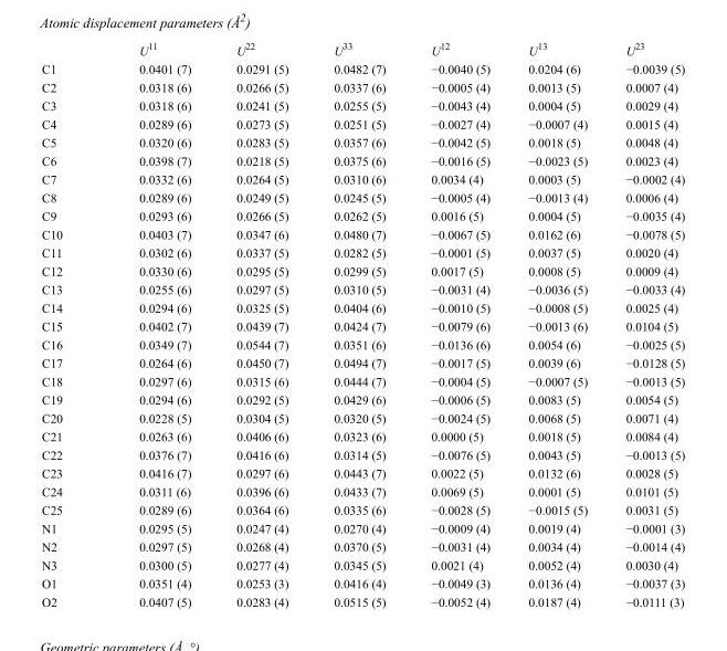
<table><thead><tr><td></td><td>U<sup>11</sup></td><td>U<sup>22</sup></td><td>U<sup>33</sup></td><td>U<sup>12</sup></td><td>U<sup>13</sup></td><td>U<sup>23</sup></td></tr></thead><tbody><tr><td>C1</td><td>0.0401 (7)</td><td>0.0291 (5)</td><td>0.0482 (7)</td><td>−0.0040 (5)</td><td>0.0204 (6)</td><td>−0.0039 (5)</td></tr><tr><td>C2</td><td>0.0318 (6)</td><td>0.0266 (5)</td><td>0.0337 (6)</td><td>−0.0005 (4)</td><td>0.0013 (5)</td><td>0.0007 (4)</td></tr><tr><td>C3</td><td>0.0318 (6)</td><td>0.0241 (5)</td><td>0.0255 (5)</td><td>−0.0043 (4)</td><td>0.0004 (5)</td><td>0.0029 (4)</td></tr><tr><td>C4</td><td>0.0289 (6)</td><td>0.0273 (5)</td><td>0.0251 (5)</td><td>−0.0027 (4)</td><td>−0.0007 (4)</td><td>0.0015 (4)</td></tr><tr><td>C5</td><td>0.0320 (6)</td><td>0.0283 (5)</td><td>0.0357 (6)</td><td>−0.0042 (5)</td><td>0.0018 (5)</td><td>0.0048 (4)</td></tr><tr><td>C6</td><td>0.0398 (7)</td><td>0.0218 (5)</td><td>0.0375 (6)</td><td>−0.0016 (5)</td><td>−0.0023 (5)</td><td>0.0023 (4)</td></tr><tr><td>C7</td><td>0.0332 (6)</td><td>0.0264 (5)</td><td>0.0310 (6)</td><td>0.0034 (4)</td><td>0.0003 (5)</td><td>−0.0002 (4)</td></tr><tr><td>C8</td><td>0.0289 (6)</td><td>0.0249 (5)</td><td>0.0245 (5)</td><td>−0.0005 (4)</td><td>−0.0013 (4)</td><td>0.0006 (4)</td></tr><tr><td>C9</td><td>0.0293 (6)</td><td>0.0266 (5)</td><td>0.0262 (5)</td><td>0.0016 (5)</td><td>0.0004 (5)</td><td>−0.0035 (4)</td></tr><tr><td>C10</td><td>0.0403 (7)</td><td>0.0347 (6)</td><td>0.0480 (7)</td><td>−0.0067 (5)</td><td>0.0162 (6)</td><td>−0.0078 (5)</td></tr><tr><td>C11</td><td>0.0302 (6)</td><td>0.0337 (5)</td><td>0.0282 (5)</td><td>−0.0001 (5)</td><td>0.0037 (5)</td><td>0.0020 (4)</td></tr><tr><td>C12</td><td>0.0330 (6)</td><td>0.0295 (5)</td><td>0.0299 (5)</td><td>0.0017 (5)</td><td>0.0008 (5)</td><td>0.0009 (4)</td></tr><tr><td>C13</td><td>0.0255 (6)</td><td>0.0297 (5)</td><td>0.0310 (5)</td><td>−0.0031 (4)</td><td>−0.0036 (5)</td><td>−0.0033 (4)</td></tr><tr><td>C14</td><td>0.0294 (6)</td><td>0.0325 (5)</td><td>0.0404 (6)</td><td>−0.0010 (5)</td><td>−0.0008 (5)</td><td>0.0025 (4)</td></tr><tr><td>C15</td><td>0.0402 (7)</td><td>0.0439 (7)</td><td>0.0424 (7)</td><td>−0.0079 (6)</td><td>−0.0013 (6)</td><td>0.0104 (5)</td></tr><tr><td>C16</td><td>0.0349 (7)</td><td>0.0544 (7)</td><td>0.0351 (6)</td><td>−0.0136 (6)</td><td>0.0054 (6)</td><td>−0.0025 (5)</td></tr><tr><td>C17</td><td>0.0264 (6)</td><td>0.0450 (7)</td><td>0.0494 (7)</td><td>−0.0017 (5)</td><td>0.0039 (6)</td><td>−0.0128 (5)</td></tr><tr><td>C18</td><td>0.0297 (6)</td><td>0.0315 (6)</td><td>0.0444 (7)</td><td>−0.0004 (5)</td><td>−0.0007 (5)</td><td>−0.0013 (5)</td></tr><tr><td>C19</td><td>0.0294 (6)</td><td>0.0292 (5)</td><td>0.0429 (6)</td><td>−0.0006 (5)</td><td>0.0083 (5)</td><td>0.0054 (5)</td></tr><tr><td>C20</td><td>0.0228 (5)</td><td>0.0304 (5)</td><td>0.0320 (5)</td><td>−0.0024 (5)</td><td>0.0068 (5)</td><td>0.0071 (4)</td></tr><tr><td>C21</td><td>0.0263 (6)</td><td>0.0406 (6)</td><td>0.0323 (6)</td><td>0.0000 (5)</td><td>0.0018 (5)</td><td>0.0084 (4)</td></tr><tr><td>C22</td><td>0.0376 (7)</td><td>0.0416 (6)</td><td>0.0314 (5)</td><td>−0.0076 (5)</td><td>0.0043 (5)</td><td>−0.0013 (5)</td></tr><tr><td>C23</td><td>0.0416 (7)</td><td>0.0297 (6)</td><td>0.0443 (7)</td><td>0.0022 (5)</td><td>0.0132 (6)</td><td>0.0028 (5)</td></tr><tr><td>C24</td><td>0.0311 (6)</td><td>0.0396 (6)</td><td>0.0433 (7)</td><td>0.0069 (5)</td><td>0.0001 (5)</td><td>0.0101 (5)</td></tr><tr><td>C25</td><td>0.0289 (6)</td><td>0.0364 (6)</td><td>0.0335 (6)</td><td>−0.0028 (5)</td><td>−0.0015 (5)</td><td>0.0031 (5)</td></tr><tr><td>N1</td><td>0.0295 (5)</td><td>0.0247 (4)</td><td>0.0270 (4)</td><td>−0.0009 (4)</td><td>0.0019 (4)</td><td>−0.0001 (3)</td></tr><tr><td>N2</td><td>0.0297 (5)</td><td>0.0268 (4)</td><td>0.0370 (5)</td><td>−0.0031 (4)</td><td>0.0034 (4)</td><td>−0.0014 (4)</td></tr><tr><td>N3</td><td>0.0300 (5)</td><td>0.0277 (4)</td><td>0.0345 (5)</td><td>0.0021 (4)</td><td>0.0052 (4)</td><td>0.0030 (4)</td></tr><tr><td>O1</td><td>0.0351 (4)</td><td>0.0253 (3)</td><td>0.0416 (4)</td><td>−0.0049 (3)</td><td>0.0136 (4)</td><td>−0.0037 (3)</td></tr><tr><td>O2</td><td>0.0407 (5)</td><td>0.0283 (4)</td><td>0.0515 (5)</td><td>−0.0052 (4)</td><td>0.0187 (4)</td><td>−0.0111 (3)</td></tr></tbody></table>